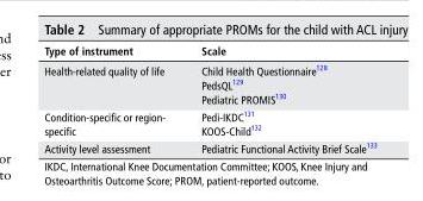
<table><thead><tr><td>Type of instrument</td><td>scale</td></tr></thead><tbody><tr><td>Health-related quality of life</td><td>Child Health Questionnaire<sup>128</sup> PedsQL<sup>129</sup> Pediatric PROMIS<sup>130</sup></td></tr><tr><td>Condition-specific or region- specific</td><td>Pedi-IKDC<sup>131</sup> KOOS-Child<sup>132</sup></td></tr><tr><td>Activity level assessment</td><td>Pediatric Functional Activity Brief Scale<sup>133</sup></td></tr></tbody></table>